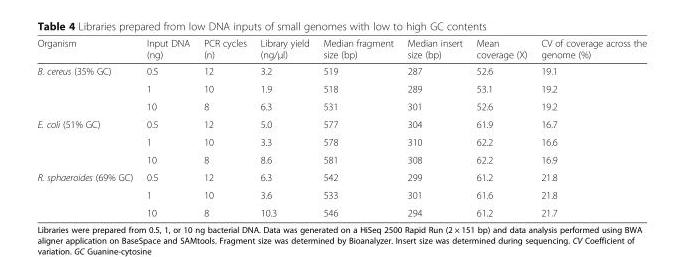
<table><thead><tr><td>Organism</td><td>Input DNA (ng)</td><td>PCR cycles (n)</td><td>Library yield (ng/μl)</td><td>Median fragment size (bp)</td><td>Median insert size (bp)</td><td>Mean coverage (X)</td><td>CV of coverage across the genome (%)</td></tr></thead><tbody><tr><td rowspan="3">B. cereus (35% GC)</td><td>0.5</td><td>12</td><td>3.2</td><td>519</td><td>287</td><td>52.6</td><td>19.1</td></tr><tr><td>1</td><td>10</td><td>1.9</td><td>518</td><td>289</td><td>53.1</td><td>19.2</td></tr><tr><td>10</td><td>8</td><td>6.3</td><td>531</td><td>301</td><td>52.6</td><td>19.2</td></tr><tr><td rowspan="3">E. coli (51% GC)</td><td>0.5</td><td>12</td><td>5.0</td><td>577</td><td>304</td><td>61.9</td><td>16.7</td></tr><tr><td>1</td><td>10</td><td>3.3</td><td>578</td><td>310</td><td>62.2</td><td>16.6</td></tr><tr><td>10</td><td>8</td><td>8.6</td><td>581</td><td>308</td><td>62.2</td><td>16.9</td></tr><tr><td rowspan="3">R. sphaeroides (69% GC)</td><td>0.5</td><td>12</td><td>6.3</td><td>542</td><td>299</td><td>61.2</td><td>21.8</td></tr><tr><td>1</td><td>10</td><td>3.6</td><td>533</td><td>301</td><td>61.6</td><td>21.8</td></tr><tr><td>10</td><td>8</td><td>10.3</td><td>546</td><td>294</td><td>61.2</td><td>21.7</td></tr></tbody></table>